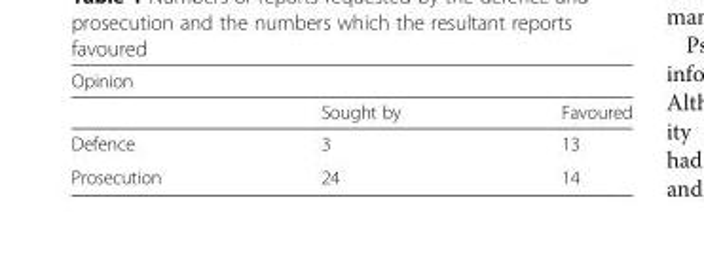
<table><thead><tr><td colspan="3">Opinion</td></tr><tr><td></td><td>Sought by</td><td>Favoured</td></tr></thead><tbody><tr><td>Defence</td><td>3</td><td>13</td></tr><tr><td>Prosecution</td><td>24</td><td>14</td></tr></tbody></table>